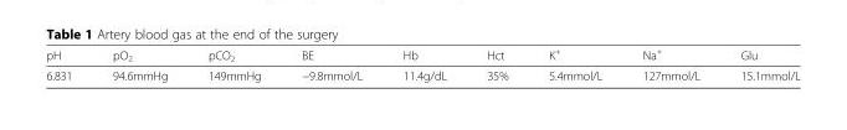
<table><thead><tr><td>pH</td><td>pO<sub>2</sub></td><td>pCO<sub>2</sub></td><td>BE</td><td>Hb</td><td>Hct</td><td>K<sup>+</sup></td><td>Na<sup>+</sup></td><td>Glu</td></tr></thead><tbody><tr><td>6.831</td><td>94.6mmHg</td><td>149mmHg</td><td>−9.8mmol/L</td><td>11.4g/dL</td><td>35%</td><td>5.4mmol/L</td><td>127mmol/L</td><td>15.1mmol/L</td></tr></tbody></table>